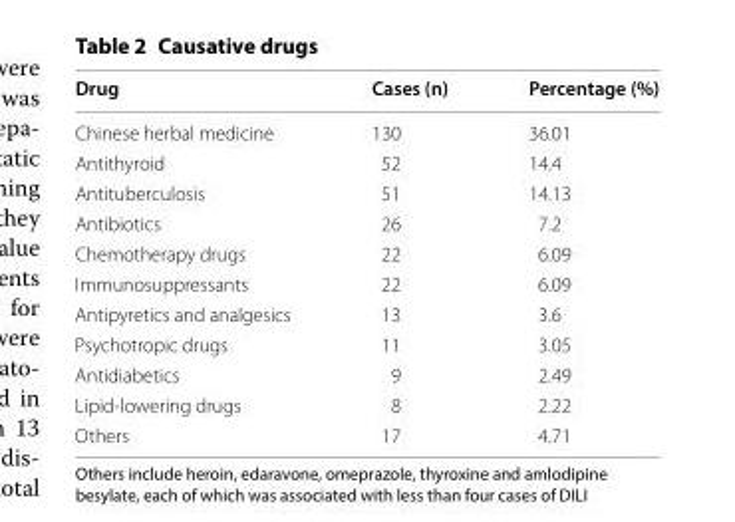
<table><thead><tr><td>Drug</td><td>Cases (n)</td><td>Percentage (%)</td></tr></thead><tbody><tr><td>Chinese herbal medicine</td><td>130</td><td>36.01</td></tr><tr><td>Antithyroid</td><td>52</td><td>14.4</td></tr><tr><td>Antituberculosis</td><td>51</td><td>14.13</td></tr><tr><td>Antibiotics</td><td>26</td><td>7.2</td></tr><tr><td>Chemotherapy drugs</td><td>22</td><td>6.09</td></tr><tr><td>Immunosuppressants</td><td>22</td><td>6.09</td></tr><tr><td>Antipyretics and analgesics</td><td>13</td><td>3.6</td></tr><tr><td>Psychotropic drugs</td><td>11</td><td>3.05</td></tr><tr><td>Antidiabetics</td><td>9</td><td>2.49</td></tr><tr><td>Lipid-lowering drugs</td><td>8</td><td>2.22</td></tr><tr><td>Others</td><td>17</td><td>4.71</td></tr></tbody></table>